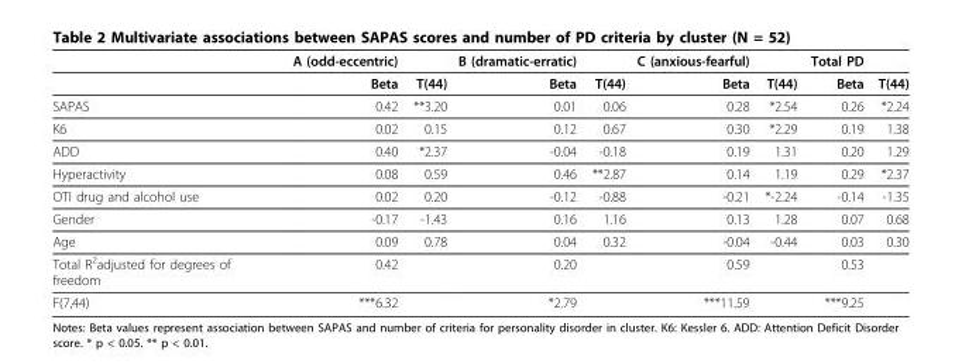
<table><thead><tr><td></td><td>A (odd-eccentric)</td><td></td><td>B (dramatic-erratic)</td><td></td><td>C (anxious-fearful)</td><td></td><td>Total PD</td><td></td></tr></thead><tbody><tr><td></td><td>Beta</td><td>T(44)</td><td>Beta</td><td>T(44)</td><td>Beta</td><td>T(44)</td><td>Beta</td><td>T(44)</td></tr><tr><td>SAPAS</td><td>0.42</td><td>**3.20</td><td>0.01</td><td>0.06</td><td>0.28</td><td>*2.54</td><td>0.26</td><td>*2.24</td></tr><tr><td>K6</td><td>0.02</td><td>0.15</td><td>0.12</td><td>0.67</td><td>0.30</td><td>*2.29</td><td>0.19</td><td>1.38</td></tr><tr><td>ADD</td><td>0.40</td><td>*2.37</td><td>-0.04</td><td>-0.18</td><td>0.19</td><td>1.31</td><td>0.20</td><td>1.29</td></tr><tr><td>Hyperactivity</td><td>0.08</td><td>0.59</td><td>0.46</td><td>**2.87</td><td>0.14</td><td>1.19</td><td>0.29</td><td>*2.37</td></tr><tr><td>OTI drug and alcohol use</td><td>0.02</td><td>0.20</td><td>-0.12</td><td>-0.88</td><td>-0.21</td><td>*-2.24</td><td>-0.14</td><td>-1.35</td></tr><tr><td>Gender</td><td>-0.17</td><td>-1.43</td><td>0.16</td><td>1.16</td><td>0.13</td><td>1.28</td><td>0.07</td><td>0.68</td></tr><tr><td>Age</td><td>0.09</td><td>0.78</td><td>0.04</td><td>0.32</td><td>-0.04</td><td>-0.44</td><td>0.03</td><td>0.30</td></tr><tr><td>Total R<sup>2</sup>adjusted for degrees of freedom</td><td>0.42</td><td></td><td>0.20</td><td></td><td>0.59</td><td></td><td>0.53</td><td></td></tr><tr><td>F(7,44)</td><td>***6.32</td><td></td><td>*2.79</td><td></td><td>***11.59</td><td></td><td>***9.25</td><td></td></tr></tbody></table>